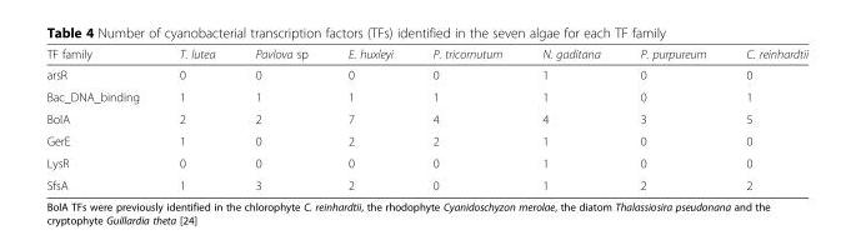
<table><thead><tr><td>TF family</td><td>T. lutea</td><td>Pavlova sp</td><td>E. huxleyi</td><td>P. tricornutum</td><td>N. gaditana</td><td>P. purpureum</td><td>C. reinhardtii</td></tr></thead><tbody><tr><td>arsR</td><td>0</td><td>0</td><td>0</td><td>0</td><td>1</td><td>0</td><td>0</td></tr><tr><td>Bac_DNA_binding</td><td>1</td><td>1</td><td>1</td><td>1</td><td>1</td><td>0</td><td>1</td></tr><tr><td>BolA</td><td>2</td><td>2</td><td>7</td><td>4</td><td>4</td><td>3</td><td>5</td></tr><tr><td>GerE</td><td>1</td><td>0</td><td>2</td><td>2</td><td>1</td><td>0</td><td>0</td></tr><tr><td>LysR</td><td>0</td><td>0</td><td>0</td><td>0</td><td>1</td><td>0</td><td>0</td></tr><tr><td>SfsA</td><td>1</td><td>3</td><td>2</td><td>0</td><td>1</td><td>2</td><td>2</td></tr></tbody></table>